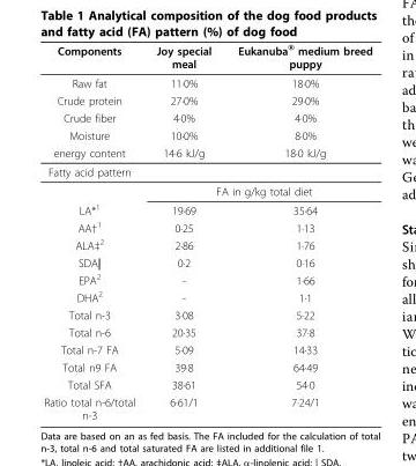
<table><thead><tr><td>Components</td><td>Joy special meal</td><td>Eukanuba<sup>®</sup> medium breed puppy</td></tr></thead><tbody><tr><td>Raw fat</td><td>11·0%</td><td>18·0%</td></tr><tr><td>Crude protein</td><td>27·0%</td><td>29·0%</td></tr><tr><td>Crude fiber</td><td>4·0%</td><td>4·0%</td></tr><tr><td>Moisture</td><td>10·0%</td><td>8·0%</td></tr><tr><td>energy content</td><td>14·6 kJ/g</td><td>18·0 kJ/g</td></tr><tr><td colspan="3">Fatty acid pattern</td></tr><tr><td></td><td colspan="2">FA in g/kg total diet</td></tr><tr><td>LA*<sup>1</sup></td><td>19·69</td><td>35·64</td></tr><tr><td>AA†<sup>1</sup></td><td>0·25</td><td>1·13</td></tr><tr><td>ALA‡<sup>2</sup></td><td>2·86</td><td>1·76</td></tr><tr><td>SDA|</td><td>0·2</td><td>0·16</td></tr><tr><td>EPA<sup>2</sup></td><td>-</td><td>1·66</td></tr><tr><td>DHA<sup>2</sup></td><td>-</td><td>1·1</td></tr><tr><td>Total n-3</td><td>3·08</td><td>5·22</td></tr><tr><td>Total n-6</td><td>20·35</td><td>37·8</td></tr><tr><td>Total n-7 FA</td><td>5·09</td><td>14·33</td></tr><tr><td>Total n9 FA</td><td>39·8</td><td>64·49</td></tr><tr><td>Total SFA</td><td>38·61</td><td>54·0</td></tr><tr><td>Ratio total n-6/total n-3</td><td>6·61/1</td><td>7·24/1</td></tr></tbody></table>